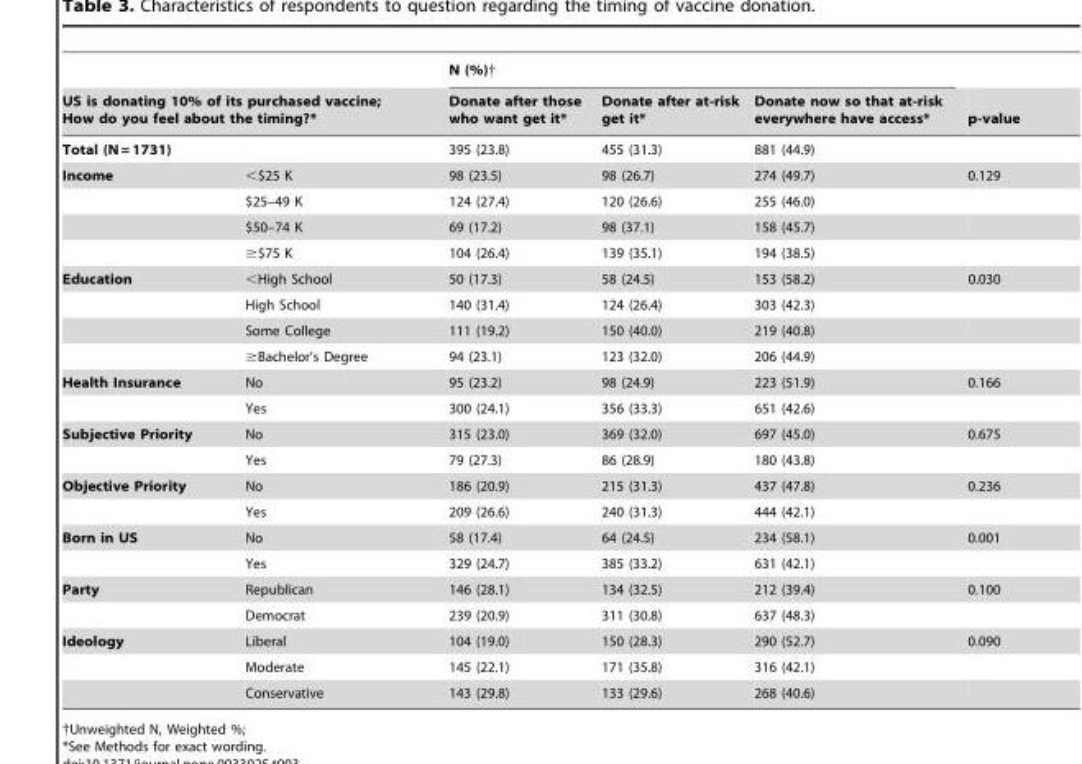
<table><thead><tr><td></td><td></td><td colspan="3">N (%)†</td><td rowspan="2">p-value</td></tr><tr><td colspan="2">US is donating 10% of its purchased vaccine; How do you feel about the timing?*</td><td>Donate after those who want get it*</td><td>Donate after at-risk get it*</td><td>Donate now so that at-risk everywhere have access*</td></tr></thead><tbody><tr><td>Total (N = 1731)</td><td></td><td>395 (23.8)</td><td>455 (31.3)</td><td>881 (44.9)</td><td></td></tr><tr><td rowspan="4">Income</td><td>&lt;$25 K</td><td>98 (23.5)</td><td>98 (26.7)</td><td>274 (49.7)</td><td>0.129</td></tr><tr><td>$25–49 K</td><td>124 (27.4)</td><td>120 (26.6)</td><td>255 (46.0)</td><td></td></tr><tr><td>$50–74 K</td><td>69 (17.2)</td><td>98 (37.1)</td><td>158 (45.7)</td><td></td></tr><tr><td>≥$75 K</td><td>104 (26.4)</td><td>139 (35.1)</td><td>194 (38.5)</td><td></td></tr><tr><td rowspan="4">Education</td><td>&lt;High School</td><td>50 (17.3)</td><td>58 (24.5)</td><td>153 (58.2)</td><td>0.030</td></tr><tr><td>High School</td><td>140 (31.4)</td><td>124 (26.4)</td><td>303 (42.3)</td><td></td></tr><tr><td>Some College</td><td>111 (19.2)</td><td>150 (40.0)</td><td>219 (40.8)</td><td></td></tr><tr><td>≥Bachelor’s Degree</td><td>94 (23.1)</td><td>123 (32.0)</td><td>206 (44.9)</td><td></td></tr><tr><td rowspan="2">Health Insurance</td><td>No</td><td>95 (23.2)</td><td>98 (24.9)</td><td>223 (51.9)</td><td>0.166</td></tr><tr><td>Yes</td><td>300 (24.1)</td><td>356 (33.3)</td><td>651 (42.6)</td><td></td></tr><tr><td rowspan="2">Subjective Priority</td><td>No</td><td>315 (23.0)</td><td>369 (32.0)</td><td>697 (45.0)</td><td>0.675</td></tr><tr><td>Yes</td><td>79 (27.3)</td><td>86 (28.9)</td><td>180 (43.8)</td><td></td></tr><tr><td rowspan="2">Objective Priority</td><td>No</td><td>186 (20.9)</td><td>215 (31.3)</td><td>437 (47.8)</td><td>0.236</td></tr><tr><td>Yes</td><td>209 (26.6)</td><td>240 (31.3)</td><td>444 (42.1)</td><td></td></tr><tr><td rowspan="2">Born in US</td><td>No</td><td>58 (17.4)</td><td>64 (24.5)</td><td>234 (58.1)</td><td>0.001</td></tr><tr><td>Yes</td><td>329 (24.7)</td><td>385 (33.2)</td><td>631 (42.1)</td><td></td></tr><tr><td rowspan="2">Party</td><td>Republican</td><td>146 (28.1)</td><td>134 (32.5)</td><td>212 (39.4)</td><td>0.100</td></tr><tr><td>Democrat</td><td>239 (20.9)</td><td>311 (30.8)</td><td>637 (48.3)</td><td></td></tr><tr><td rowspan="3">Ideology</td><td>Liberal</td><td>104 (19.0)</td><td>150 (28.3)</td><td>290 (52.7)</td><td>0.090</td></tr><tr><td>Moderate</td><td>145 (22.1)</td><td>171 (35.8)</td><td>316 (42.1)</td><td></td></tr><tr><td>Conservative</td><td>143 (29.8)</td><td>133 (29.6)</td><td>268 (40.6)</td><td></td></tr></tbody></table>